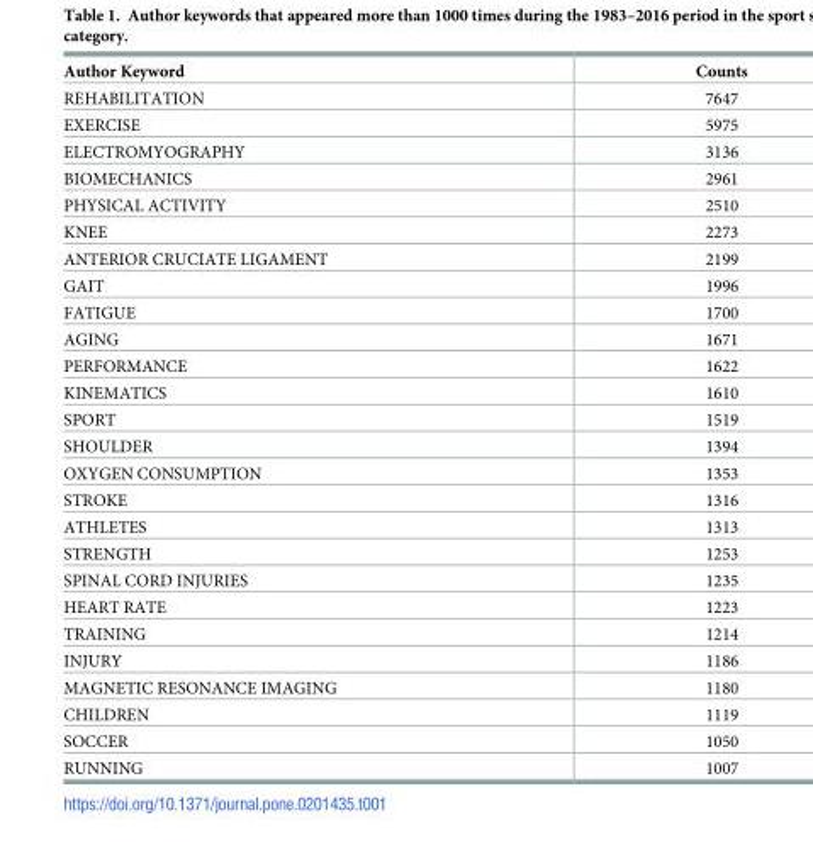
<table><thead><tr><td>Author Keyword</td><td>Counts</td></tr></thead><tbody><tr><td>REHABILITATION</td><td>7647</td></tr><tr><td>EXERCISE</td><td>5975</td></tr><tr><td>ELECTROMYOGRAPHY</td><td>3136</td></tr><tr><td>BIOMECHANICS</td><td>2961</td></tr><tr><td>PHYSICAL ACTIVITY</td><td>2510</td></tr><tr><td>KNEE</td><td>2273</td></tr><tr><td>ANTERIOR CRUCIATE LIGAMENT</td><td>2199</td></tr><tr><td>GAIT</td><td>1996</td></tr><tr><td>FATIGUE</td><td>1700</td></tr><tr><td>AGING</td><td>1671</td></tr><tr><td>PERFORMANCE</td><td>1622</td></tr><tr><td>KINEMATICS</td><td>1610</td></tr><tr><td>SPORT</td><td>1519</td></tr><tr><td>SHOULDER</td><td>1394</td></tr><tr><td>OXYGEN CONSUMPTION</td><td>1353</td></tr><tr><td>STROKE</td><td>1316</td></tr><tr><td>ATHLETES</td><td>1313</td></tr><tr><td>STRENGTH</td><td>1253</td></tr><tr><td>SPINAL CORD INJURIES</td><td>1235</td></tr><tr><td>HEART RATE</td><td>1223</td></tr><tr><td>TRAINING</td><td>1214</td></tr><tr><td>INJURY</td><td>1186</td></tr><tr><td>MAGNETIC RESONANCE IMAGING</td><td>1180</td></tr><tr><td>CHILDREN</td><td>1119</td></tr><tr><td>SOCCER</td><td>1050</td></tr><tr><td>RUNNING</td><td>1007</td></tr></tbody></table>